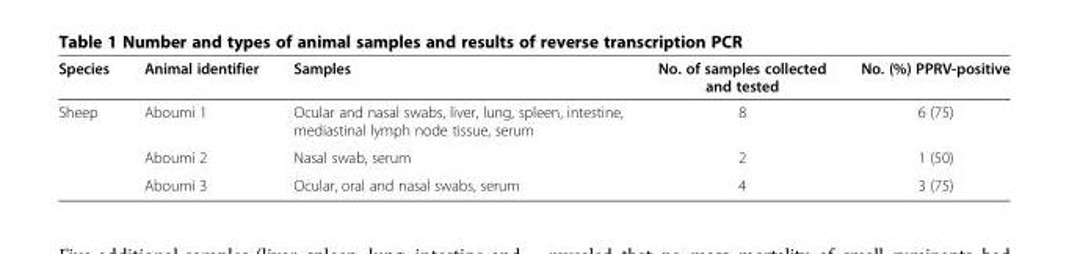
<table><thead><tr><td>Species</td><td>Animal identifier</td><td>Samples</td><td>No. of samples collected and tested</td><td>No. (%) PPRV-positive</td></tr></thead><tbody><tr><td rowspan="3">Sheep</td><td>Aboumi 1</td><td>Ocular and nasal swabs, liver, lung, spleen, intestine, mediastinal lymph node tissue, serum</td><td>8</td><td>6 (75)</td></tr><tr><td>Aboumi 2</td><td>Nasal swab, serum</td><td>2</td><td>1 (50)</td></tr><tr><td>Aboumi 3</td><td>Ocular, oral and nasal swabs, serum</td><td>4</td><td>3 (75)</td></tr></tbody></table>